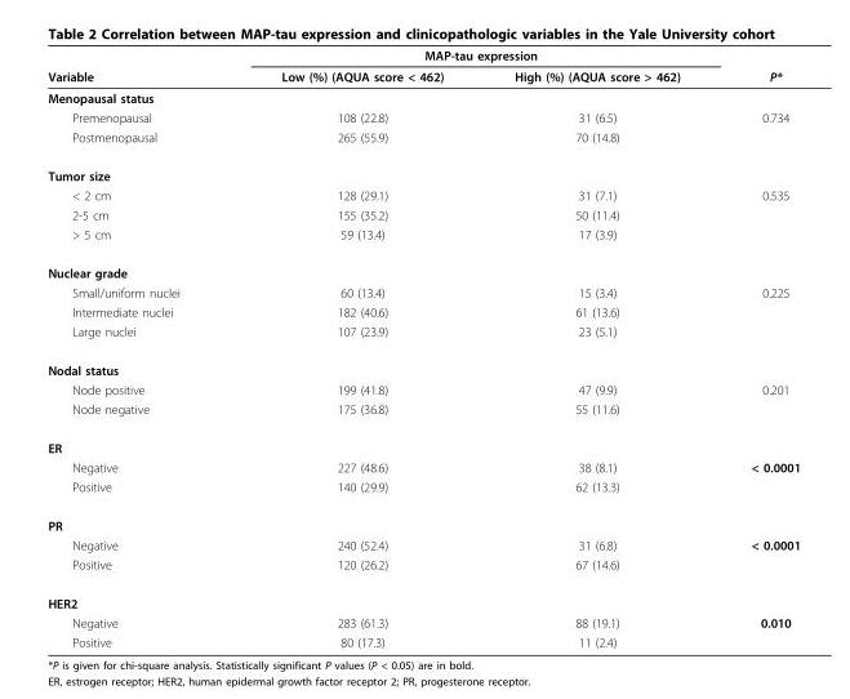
<table><thead><tr><td rowspan="2">Variable</td><td colspan="2">MAP-tau expression</td><td rowspan="2">P*</td></tr><tr><td>Low (%) (AQUA score &lt; 462)</td><td>High (%) (AQUA score &gt; 462)</td></tr></thead><tbody><tr><td colspan="4">Menopausal status</td></tr><tr><td>Premenopausal</td><td>108 (22.8)</td><td>31 (6.5)</td><td>0.734</td></tr><tr><td>Postmenopausal</td><td>265 (55.9)</td><td>70 (14.8)</td><td></td></tr><tr><td colspan="4">Tumor size</td></tr><tr><td>&lt; 2 cm</td><td>128 (29.1)</td><td>31 (7.1)</td><td>0.535</td></tr><tr><td>2-5 cm</td><td>155 (35.2)</td><td>50 (11.4)</td><td></td></tr><tr><td>&gt; 5 cm</td><td>59 (13.4)</td><td>17 (3.9)</td><td></td></tr><tr><td colspan="4">Nuclear grade</td></tr><tr><td>Small/uniform nuclei</td><td>60 (13.4)</td><td>15 (3.4)</td><td>0.225</td></tr><tr><td>Intermediate nuclei</td><td>182 (40.6)</td><td>61 (13.6)</td><td></td></tr><tr><td>Large nuclei</td><td>107 (23.9)</td><td>23 (5.1)</td><td></td></tr><tr><td colspan="4">Nodal status</td></tr><tr><td>Node positive</td><td>199 (41.8)</td><td>47 (9.9)</td><td>0.201</td></tr><tr><td>Node negative</td><td>175 (36.8)</td><td>55 (11.6)</td><td></td></tr><tr><td colspan="4">ER</td></tr><tr><td>Negative</td><td>227 (48.6)</td><td>38 (8.1)</td><td>&lt; 0.0001</td></tr><tr><td>Positive</td><td>140 (29.9)</td><td>62 (13.3)</td><td></td></tr><tr><td colspan="4">PR</td></tr><tr><td>Negative</td><td>240 (52.4)</td><td>31 (6.8)</td><td>&lt; 0.0001</td></tr><tr><td>Positive</td><td>120 (26.2)</td><td>67 (14.6)</td><td></td></tr><tr><td colspan="4">HER2</td></tr><tr><td>Negative</td><td>283 (61.3)</td><td>88 (19.1)</td><td>0.010</td></tr><tr><td>Positive</td><td>80 (17.3)</td><td>11 (2.4)</td><td></td></tr></tbody></table>